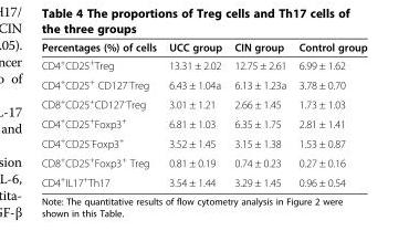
<table><thead><tr><td>Percentages (%) of cells</td><td>UCC group</td><td>CIN group</td><td>Control group</td></tr></thead><tbody><tr><td>CD4<sup>+</sup>CD25<sup>+</sup>Treg</td><td>13.31 ± 2.02</td><td>12.75 ± 2.61</td><td>6.99 ± 1.62</td></tr><tr><td>CD4<sup>+</sup>CD25<sup>+</sup> CD127<sup>-</sup>Treg</td><td>6.43 ± 1.04a</td><td>6.13 ± 1.23a</td><td>3.78 ± 0.70</td></tr><tr><td>CD8<sup>+</sup>CD25<sup>+</sup>CD127<sup>-</sup>Treg</td><td>3.01 ± 1.21</td><td>2.66 ± 1.45</td><td>1.73 ± 1.03</td></tr><tr><td>CD4<sup>+</sup>CD25<sup>+</sup>Foxp3<sup>+</sup></td><td>6.81 ± 1.03</td><td>6.35 ± 1.75</td><td>2.81 ± 1.41</td></tr><tr><td>CD4<sup>+</sup>CD25<sup>-</sup>Foxp3<sup>+</sup></td><td>3.52 ± 1.45</td><td>3.15 ± 1.38</td><td>1.53 ± 0.87</td></tr><tr><td>CD8<sup>+</sup>CD25<sup>+</sup>Foxp3<sup>+</sup> Treg</td><td>0.81 ± 0.19</td><td>0.74 ± 0.23</td><td>0.27 ± 0.16</td></tr><tr><td>CD4<sup>+</sup>IL17<sup>+</sup>Th17</td><td>3.54 ± 1.44</td><td>3.29 ± 1.45</td><td>0.96 ± 0.54</td></tr></tbody></table>